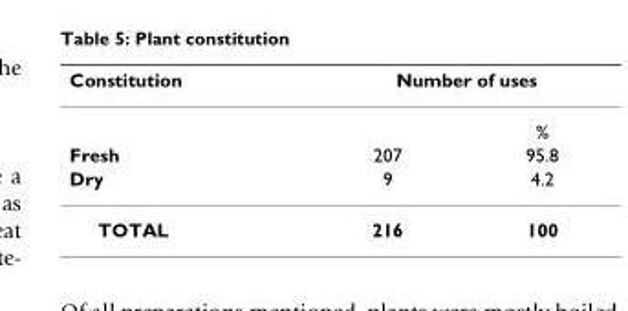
<table><thead><tr><td rowspan="2">Constitution</td><td colspan="2">Number of uses</td></tr><tr><td></td><td>%</td></tr></thead><tbody><tr><td>Fresh</td><td>207</td><td>95.8</td></tr><tr><td>Dry</td><td>9</td><td>4.2</td></tr><tr><td>TOTAL</td><td>216</td><td>100</td></tr></tbody></table>